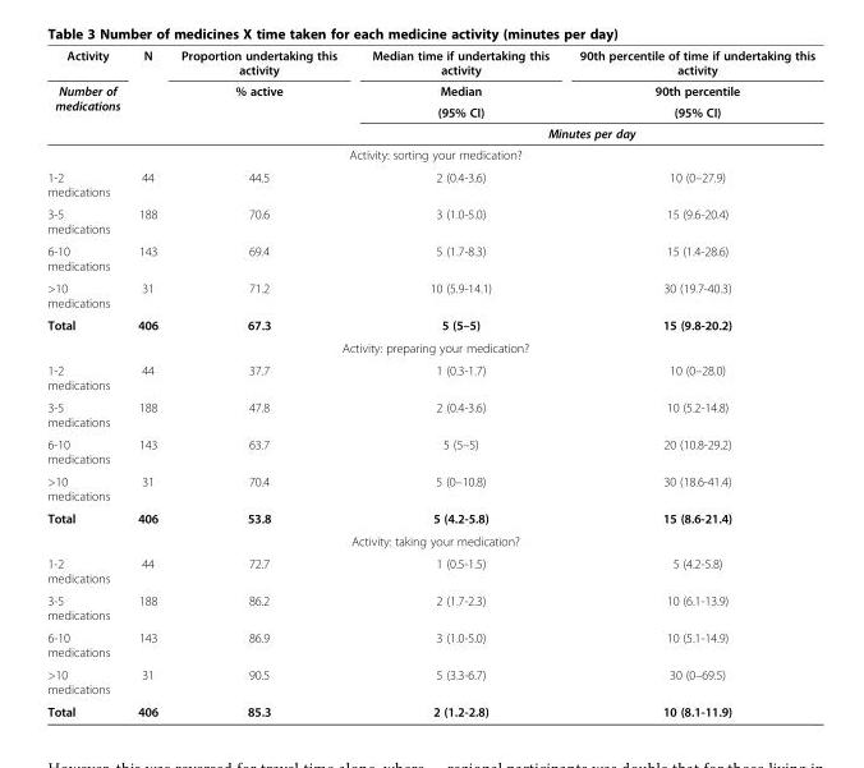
<table><thead><tr><td rowspan="4">Activity Number of medications</td><td rowspan="4">N</td><td rowspan="4">Proportion undertaking this activity % active</td><td rowspan="3">Median time if undertaking this activity Median (95% CI)</td><td rowspan="3">90th percentile of time if undertaking this activity 90th percentile (95% CI)</td></tr><tr></tr><tr></tr><tr><td colspan="2">Minutes per day</td></tr></thead><tbody><tr><td colspan="5">Activity: sorting your medication?</td></tr><tr><td>1-2 medications</td><td>44</td><td>44.5</td><td>2 (0.4-3.6)</td><td>10 (0–27.9)</td></tr><tr><td>3-5 medications</td><td>188</td><td>70.6</td><td>3 (1.0-5.0)</td><td>15 (9.6-20.4)</td></tr><tr><td>6-10 medications</td><td>143</td><td>69.4</td><td>5 (1.7-8.3)</td><td>15 (1.4-28.6)</td></tr><tr><td>&gt;10 medications</td><td>31</td><td>71.2</td><td>10 (5.9-14.1)</td><td>30 (19.7-40.3)</td></tr><tr><td>Total</td><td>406</td><td>67.3</td><td>5 (5–5)</td><td>15 (9.8-20.2)</td></tr><tr><td colspan="5">Activity: preparing your medication?</td></tr><tr><td>1-2 medications</td><td>44</td><td>37.7</td><td>1 (0.3-1.7)</td><td>10 (0–28.0)</td></tr><tr><td>3-5 medications</td><td>188</td><td>47.8</td><td>2 (0.4-3.6)</td><td>10 (5.2-14.8)</td></tr><tr><td>6-10 medications</td><td>143</td><td>63.7</td><td>5 (5–5)</td><td>20 (10.8-29.2)</td></tr><tr><td>&gt;10 medications</td><td>31</td><td>70.4</td><td>5 (0–10.8)</td><td>30 (18.6-41.4)</td></tr><tr><td>Total</td><td>406</td><td>53.8</td><td>5 (4.2-5.8)</td><td>15 (8.6-21.4)</td></tr><tr><td colspan="5">Activity: taking your medication?</td></tr><tr><td>1-2 medications</td><td>44</td><td>72.7</td><td>1 (0.5-1.5)</td><td>5 (4.2-5.8)</td></tr><tr><td>3-5 medications</td><td>188</td><td>86.2</td><td>2 (1.7-2.3)</td><td>10 (6.1-13.9)</td></tr><tr><td>6-10 medications</td><td>143</td><td>86.9</td><td>3 (1.0-5.0)</td><td>10 (5.1-14.9)</td></tr><tr><td>&gt;10 medications</td><td>31</td><td>90.5</td><td>5 (3.3-6.7)</td><td>30 (0–69.5)</td></tr><tr><td>Total</td><td>406</td><td>85.3</td><td>2 (1.2-2.8)</td><td>10 (8.1-11.9)</td></tr></tbody></table>